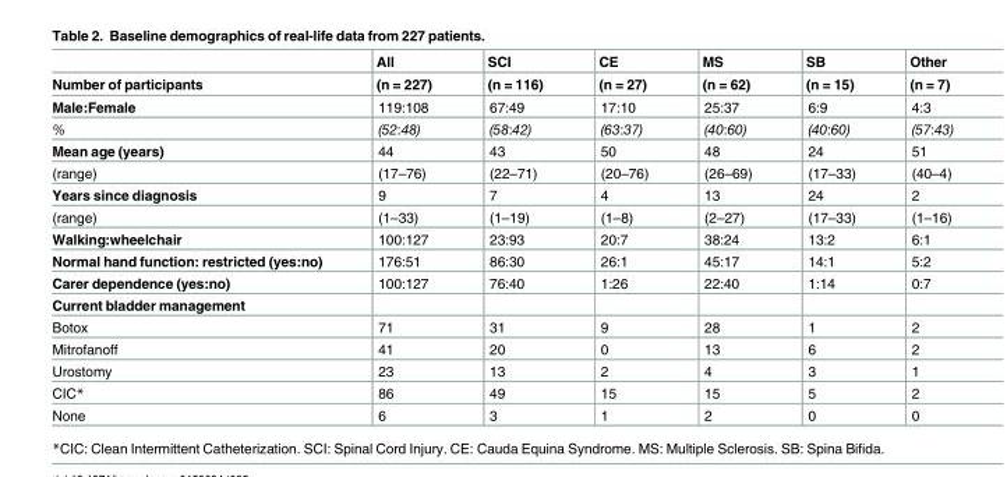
<table><thead><tr><td rowspan="2">Number of participants</td><td rowspan="2">All (n = 227)</td><td rowspan="2">SCI (n = 116)</td><td rowspan="2">CE (n = 27)</td><td rowspan="2">MS (n = 62)</td><td rowspan="2">SB (n = 15)</td><td rowspan="2">Other (n = 7)</td></tr><tr></tr></thead><tbody><tr><td>Male:Female</td><td>119:108</td><td>67:49</td><td>17:10</td><td>25:37</td><td>6:9</td><td>4:3</td></tr><tr><td>%</td><td>(52:48)</td><td>(58:42)</td><td>(63:37)</td><td>(40:60)</td><td>(40:60)</td><td>(57:43)</td></tr><tr><td>Mean age (years)</td><td>44</td><td>43</td><td>50</td><td>48</td><td>24</td><td>51</td></tr><tr><td>(range)</td><td>(17–76)</td><td>(22–71)</td><td>(20–76)</td><td>(26–69)</td><td>(17–33)</td><td>(40–4)</td></tr><tr><td>Years since diagnosis</td><td>9</td><td>7</td><td>4</td><td>13</td><td>24</td><td>2</td></tr><tr><td>(range)</td><td>(1–33)</td><td>(1–19)</td><td>(1–8)</td><td>(2–27)</td><td>(17–33)</td><td>(1–16)</td></tr><tr><td>Walking:wheelchair</td><td>100:127</td><td>23:93</td><td>20:7</td><td>38:24</td><td>13:2</td><td>6:1</td></tr><tr><td>Normal hand function: restricted (yes:no)</td><td>176:51</td><td>86:30</td><td>26:1</td><td>45:17</td><td>14:1</td><td>5:2</td></tr><tr><td>Carer dependence (yes:no)</td><td>100:127</td><td>76:40</td><td>1:26</td><td>22:40</td><td>1:14</td><td>0:7</td></tr><tr><td colspan="7">Current bladder management</td></tr><tr><td>Botox</td><td>71</td><td>31</td><td>9</td><td>28</td><td>1</td><td>2</td></tr><tr><td>Mitrofanoff</td><td>41</td><td>20</td><td>0</td><td>13</td><td>6</td><td>2</td></tr><tr><td>Urostomy</td><td>23</td><td>13</td><td>2</td><td>4</td><td>3</td><td>1</td></tr><tr><td>CIC*</td><td>86</td><td>49</td><td>15</td><td>15</td><td>5</td><td>2</td></tr><tr><td>None</td><td>6</td><td>3</td><td>1</td><td>2</td><td>0</td><td>0</td></tr></tbody></table>